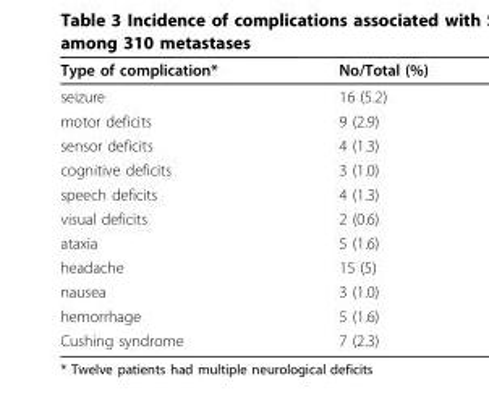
<table><thead><tr><td>Type of complication*</td><td>No/Total (%)</td></tr></thead><tbody><tr><td>seizure</td><td>16 (5.2)</td></tr><tr><td>motor deficits</td><td>9 (2.9)</td></tr><tr><td>sensor deficits</td><td>4 (1.3)</td></tr><tr><td>cognitive deficits</td><td>3 (1.0)</td></tr><tr><td>speech deficits</td><td>4 (1.3)</td></tr><tr><td>visual deficits</td><td>2 (0.6)</td></tr><tr><td>ataxia</td><td>5 (1.6)</td></tr><tr><td>headache</td><td>15 (5)</td></tr><tr><td>nausea</td><td>3 (1.0)</td></tr><tr><td>hemorrhage</td><td>5 (1.6)</td></tr><tr><td>Cushing syndrome</td><td>7 (2.3)</td></tr></tbody></table>